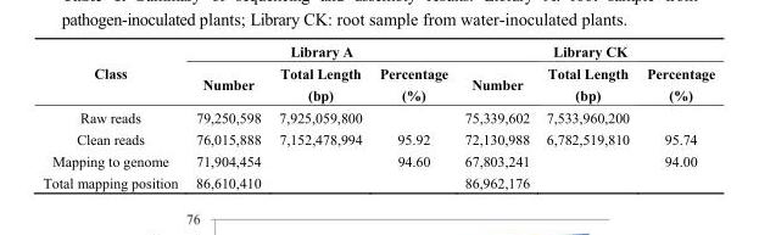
<table><thead><tr><td rowspan="2">Class</td><td colspan="3">Library A</td><td colspan="3">Library CK</td></tr><tr><td>Number</td><td>Total Length (bp)</td><td>Percentage (%)</td><td>Number</td><td>Total Length (bp)</td><td>Percentage (%)</td></tr></thead><tbody><tr><td>Raw reads</td><td>79,250,598</td><td>7,925,059,800</td><td></td><td>75,339,602</td><td>7,533,960,200</td><td></td></tr><tr><td>Clean reads</td><td>76,015,888</td><td>7,152,478,994</td><td>95.92</td><td>72,130,988</td><td>6,782,519,810</td><td>95.74</td></tr><tr><td>Mapping to genome</td><td>71,904,454</td><td></td><td>94.60</td><td>67,803,241</td><td></td><td>94.00</td></tr><tr><td>Total mapping position</td><td>86,610,410</td><td></td><td></td><td>86,962,176</td><td></td><td></td></tr></tbody></table>